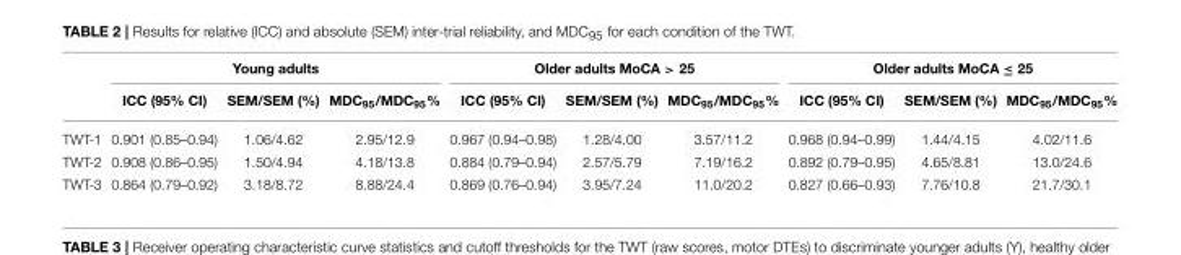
<table><thead><tr><td rowspan="2"></td><td colspan="3">Young adults</td><td colspan="3">Older adults MoCA &gt; 25</td><td colspan="3">Older adults MoCA ≤ 25</td></tr><tr><td>ICC (95% CI)</td><td>SEM/SEM (%)</td><td>MDC<sub>95</sub>/MDC<sub>95</sub>%</td><td>ICC (95% CI)</td><td>SEM/SEM (%)</td><td>MDC<sub>95</sub>/MDC<sub>95</sub>%</td><td>ICC (95% CI)</td><td>SEM/SEM (%)</td><td>MDC<sub>95</sub>/MDC<sub>95</sub>%</td></tr></thead><tbody><tr><td>TWT-1</td><td>0.901 (0.85–0.94)</td><td>1.06/4.62</td><td>2.95/12.9</td><td>0.967 (0.94–0.98)</td><td>1.28/4.00</td><td>3.57/11.2</td><td>0.968 (0.94–0.99)</td><td>1.44/4.15</td><td>4.02/11.6</td></tr><tr><td>TWT-2</td><td>0.908 (0.86–0.95)</td><td>1.50/4.94</td><td>4.18/13.8</td><td>0.884 (0.79–0.94)</td><td>2.57/5.79</td><td>7.19/16.2</td><td>0.892 (0.79–0.95)</td><td>4.65/8.81</td><td>13.0/24.6</td></tr><tr><td>TWT-3</td><td>0.864 (0.79–0.92)</td><td>3.18/8.72</td><td>8.88/24.4</td><td>0.869 (0.76–0.94)</td><td>3.95/7.24</td><td>11.0/20.2</td><td>0.827 (0.66–0.93)</td><td>7.76/10.8</td><td>21.7/30.1</td></tr></tbody></table>